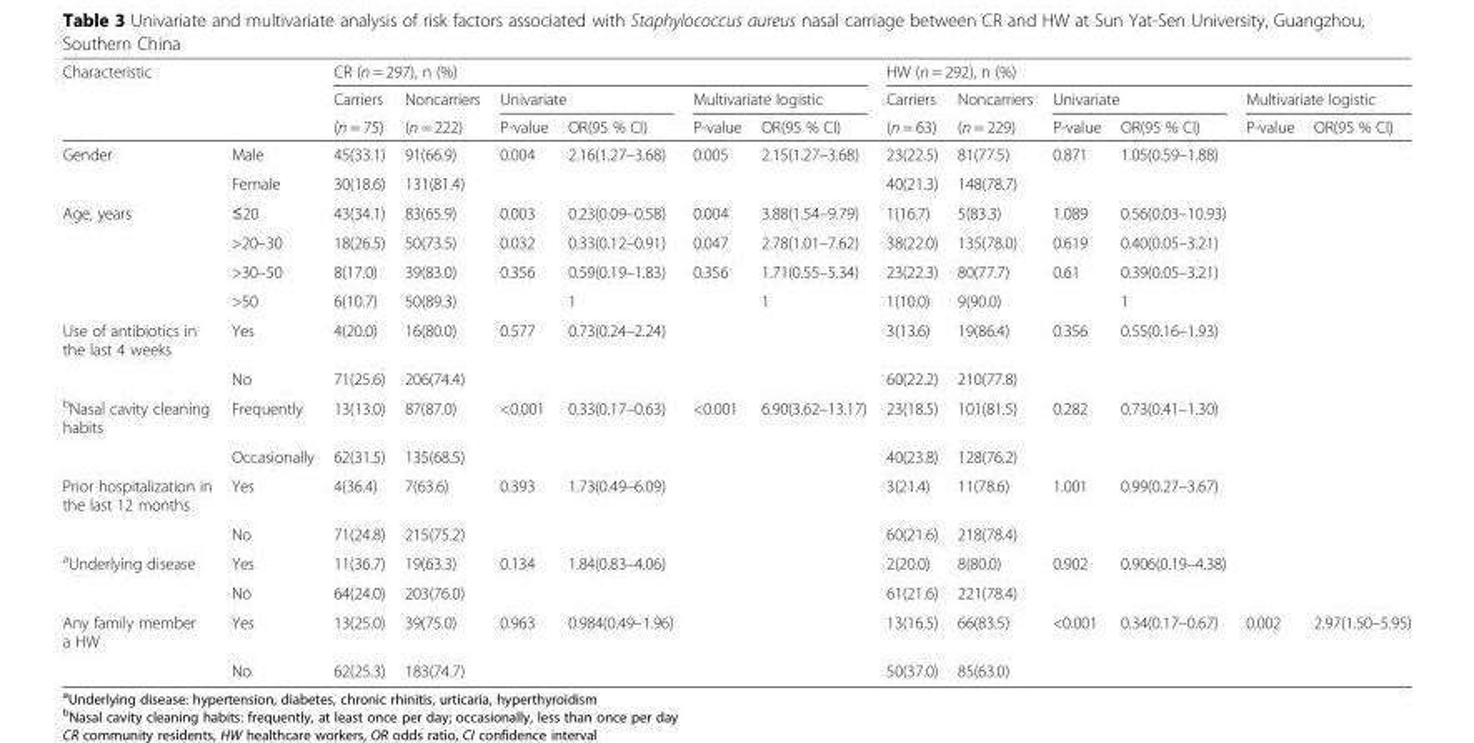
<table><thead><tr><td rowspan="3" colspan="2">Characteristic</td><td colspan="6">CR (n = 297), n (%)</td><td colspan="6">HW (n = 292), n (%)</td></tr><tr><td rowspan="3">Carriers (n = 75) 45(33.1)</td><td rowspan="3">Noncarriers (n = 222) 91(66.9)</td><td colspan="2">Univariate</td><td colspan="2">Multivariate logistic</td><td rowspan="3">Carriers (n = 63) 23(22.5)</td><td rowspan="3">Noncarriers (n = 229) 81(77.5)</td><td colspan="2">Univariate</td><td colspan="2">Multivariate logistic</td></tr><tr><td rowspan="2">P-value 0.004</td><td rowspan="2">OR(95 % CI) 2.16(1.27–3.68)</td><td rowspan="2">P-value 0.005</td><td rowspan="2">OR(95 % CI) 2.15(1.27–3.68)</td><td rowspan="2">P-value 0.871</td><td rowspan="2">OR(95 % CI) 1.05(0.59–1.88)</td><td rowspan="2">P-value</td><td rowspan="2">OR(95 % CI)</td></tr><tr><td>Gender</td><td>Male</td></tr></thead><tbody><tr><td></td><td>Female</td><td>30(18.6)</td><td>131(81.4)</td><td></td><td></td><td></td><td></td><td>40(21.3)</td><td>148(78.7)</td><td></td><td></td><td></td><td></td></tr><tr><td rowspan="4">Age, years</td><td>≤20</td><td>43(34.1)</td><td>83(65.9)</td><td>0.003</td><td>0.23(0.09–0.58)</td><td>0.004</td><td>3.88(1.54–9.79)</td><td>1(16.7)</td><td>5(83.3)</td><td>1.089</td><td>0.56(0.03–10.93)</td><td></td><td></td></tr><tr><td>&gt;20–30</td><td>18(26.5)</td><td>50(73.5)</td><td>0.032</td><td>0.33(0.12–0.91)</td><td>0.047</td><td>2.78(1.01–7.62)</td><td>38(22.0)</td><td>135(78.0)</td><td>0.619</td><td>0.40(0.05–3.21)</td><td></td><td></td></tr><tr><td>&gt;30–50</td><td>8(17.0)</td><td>39(83.0)</td><td>0.356</td><td>0.59(0.19–1.83)</td><td>0.356</td><td>1.71(0.55–5.34)</td><td>23(22.3)</td><td>80(77.7)</td><td>0.61</td><td>0.39(0.05–3.21)</td><td></td><td></td></tr><tr><td>&gt;50</td><td>6(10.7)</td><td>50(89.3)</td><td></td><td>1</td><td></td><td>1</td><td>1(10.0)</td><td>9(90.0)</td><td></td><td>1</td><td></td><td></td></tr><tr><td rowspan="2">Use of antibiotics in the last 4 weeks</td><td>Yes</td><td>4(20.0)</td><td>16(80.0)</td><td>0.577</td><td>0.73(0.24–2.24)</td><td></td><td></td><td>3(13.6)</td><td>19(86.4)</td><td>0.356</td><td>0.55(0.16–1.93)</td><td></td><td></td></tr><tr><td>No</td><td>71(25.6)</td><td>206(74.4)</td><td></td><td></td><td></td><td></td><td>60(22.2)</td><td>210(77.8)</td><td></td><td></td><td></td><td></td></tr><tr><td rowspan="2"><sup>b</sup>Nasal cavity cleaning habits</td><td>Frequently</td><td>13(13.0)</td><td>87(87.0)</td><td>&lt;0.001</td><td>0.33(0.17–0.63)</td><td>&lt;0.001</td><td>6.90(3.62–13.17)</td><td>23(18.5)</td><td>101(81.5)</td><td>0.282</td><td>0.73(0.41–1.30)</td><td></td><td></td></tr><tr><td>Occasionally</td><td>62(31.5)</td><td>135(68.5)</td><td></td><td></td><td></td><td></td><td>40(23.8)</td><td>128(76.2)</td><td></td><td></td><td></td><td></td></tr><tr><td rowspan="2">Prior hospitalization in the last 12 months</td><td>Yes</td><td>4(36.4)</td><td>7(63.6)</td><td>0.393</td><td>1.73(0.49–6.09)</td><td></td><td></td><td>3(21.4)</td><td>11(78.6)</td><td>1.001</td><td>0.99(0.27–3.67)</td><td></td><td></td></tr><tr><td>No</td><td>71(24.8)</td><td>215(75.2)</td><td></td><td></td><td></td><td></td><td>60(21.6)</td><td>218(78.4)</td><td></td><td></td><td></td><td></td></tr><tr><td rowspan="2"><sup>a</sup>Underlying disease</td><td>Yes</td><td>11(36.7)</td><td>19(63.3)</td><td>0.134</td><td>1.84(0.83–4.06)</td><td></td><td></td><td>2(20.0)</td><td>8(80.0)</td><td>0.902</td><td>0.906(0.19–4.38)</td><td></td><td></td></tr><tr><td>No</td><td>64(24.0)</td><td>203(76.0)</td><td></td><td></td><td></td><td></td><td>61(21.6)</td><td>221(78.4)</td><td></td><td></td><td></td><td></td></tr><tr><td rowspan="2">Any family member a HW</td><td>Yes</td><td>13(25.0)</td><td>39(75.0)</td><td>0.963</td><td>0.984(0.49–1.96)</td><td></td><td></td><td>13(16.5)</td><td>66(83.5)</td><td>&lt;0.001</td><td>0.34(0.17–0.67)</td><td>0.002</td><td>2.97(1.50–5.95)</td></tr><tr><td>No</td><td>62(25.3)</td><td>183(74.7)</td><td></td><td></td><td></td><td></td><td>50(37.0)</td><td>85(63.0)</td><td></td><td></td><td></td><td></td></tr></tbody></table>